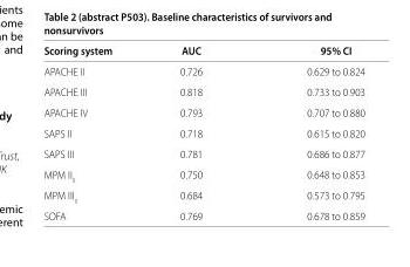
<table><thead><tr><td>Scoring system</td><td>AUC</td><td>95% CI</td></tr></thead><tbody><tr><td>APACHE II</td><td>0.726</td><td>0.629 to 0.824</td></tr><tr><td>APACHE III</td><td>0.818</td><td>0.733 to 0.903</td></tr><tr><td>APACHE IV</td><td>0.793</td><td>0.707 to 0.880</td></tr><tr><td>SAPS II</td><td>0.718</td><td>0.615 to 0.820</td></tr><tr><td>SAPS III</td><td>0.781</td><td>0.686 to 0.877</td></tr><tr><td>MPM II<sub>0</sub></td><td>0.750</td><td>0.648 to 0.853</td></tr><tr><td>MPM III<sub>0</sub></td><td>0.684</td><td>0.573 to 0.795</td></tr><tr><td>SOFA</td><td>0.769</td><td>0.678 to 0.859</td></tr></tbody></table>